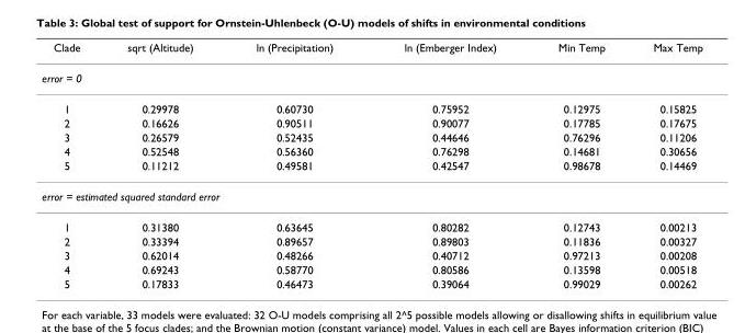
<table><thead><tr><td>Clade</td><td>sqrt (Altitude)</td><td>ln (Precipitation)</td><td>ln (Emberger Index)</td><td>Min Temp</td><td>Max Temp</td></tr></thead><tbody><tr><td colspan="6">error = 0</td></tr><tr><td>1</td><td>0.29978</td><td>0.60730</td><td>0.75952</td><td>0.12975</td><td>0.15825</td></tr><tr><td>2</td><td>0.16626</td><td>0.90511</td><td>0.90077</td><td>0.17785</td><td>0.17675</td></tr><tr><td>3</td><td>0.26579</td><td>0.52435</td><td>0.44646</td><td>0.76296</td><td>0.11206</td></tr><tr><td>4</td><td>0.52548</td><td>0.56360</td><td>0.76298</td><td>0.14681</td><td>0.30656</td></tr><tr><td>5</td><td>0.11212</td><td>0.49581</td><td>0.42547</td><td>0.98678</td><td>0.14469</td></tr><tr><td colspan="6">error = estimated squared standard error</td></tr><tr><td>1</td><td>0.31380</td><td>0.63645</td><td>0.80282</td><td>0.12743</td><td>0.00213</td></tr><tr><td>2</td><td>0.33394</td><td>0.89657</td><td>0.89803</td><td>0.11836</td><td>0.00327</td></tr><tr><td>3</td><td>0.62014</td><td>0.48266</td><td>0.40712</td><td>0.97213</td><td>0.00208</td></tr><tr><td>4</td><td>0.69243</td><td>0.58770</td><td>0.80586</td><td>0.13598</td><td>0.00518</td></tr><tr><td>5</td><td>0.17833</td><td>0.46473</td><td>0.39064</td><td>0.99029</td><td>0.00262</td></tr></tbody></table>